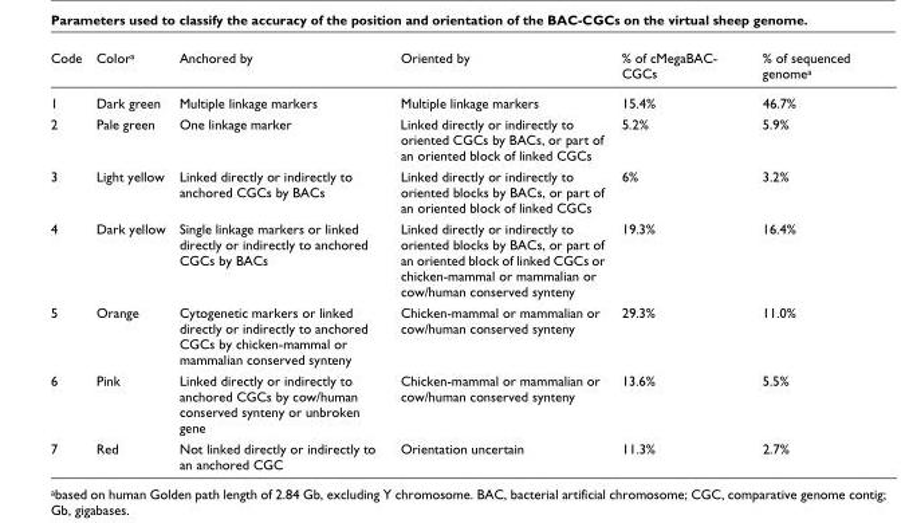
<table><thead><tr><td>Code</td><td>Color<sup>a</sup></td><td>Anchored by</td><td>Oriented by</td><td>% of cMegaBAC- CGCs</td><td>% of sequenced genome<sup>a</sup></td></tr></thead><tbody><tr><td>1</td><td>Dark green</td><td>Multiple linkage markers</td><td>Multiple linkage markers</td><td>15.4%</td><td>46.7%</td></tr><tr><td>2</td><td>Pale green</td><td>One linkage marker</td><td>Linked directly or indirectly to oriented CGCs by BACs, or part of an oriented block of linked CGCs</td><td>5.2%</td><td>5.9%</td></tr><tr><td>3</td><td>Light yellow</td><td>Linked directly or indirectly to anchored CGCs by BACs</td><td>Linked directly or indirectly to oriented blocks by BACs, or part of an oriented block of linked CGCs</td><td>6%</td><td>3.2%</td></tr><tr><td>4</td><td>Dark yellow</td><td>Single linkage markers or linked directly or indirectly to anchored CGCs by BACs</td><td>Linked directly or indirectly to oriented blocks by BACs, or part of an oriented block of linked CGCs or chicken-mammal or mammalian or cow/human conserved synteny</td><td>19.3%</td><td>16.4%</td></tr><tr><td>5</td><td>Orange</td><td>Cytogenetic markers or linked directly or indirectly to anchored CGCs by chicken-mammal or mammalian conserved synteny</td><td>Chicken-mammal or mammalian or cow/human conserved synteny</td><td>29.3%</td><td>11.0%</td></tr><tr><td>6</td><td>Pink</td><td>Linked directly or indirectly to anchored CGCs by cow/human conserved synteny or unbroken gene</td><td>Chicken-mammal or mammalian or cow/human conserved synteny</td><td>13.6%</td><td>5.5%</td></tr><tr><td>7</td><td>Red</td><td>Not linked directly or indirectly to an anchored CGC</td><td>Orientation uncertain</td><td>11.3%</td><td>2.7%</td></tr></tbody></table>